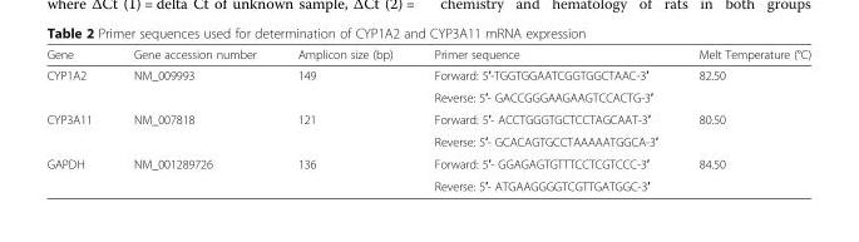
<table><thead><tr><td>Gene</td><td>Gene accession number</td><td>Amplicon size (bp)</td><td>Primer sequence</td><td>Melt Temperature (°C)</td></tr></thead><tbody><tr><td rowspan="2">CYP1A2</td><td rowspan="2">NM_009993</td><td rowspan="2">149</td><td>Forward: 5′-TGGTGGAATCGGTGGCTAAC-3′</td><td rowspan="2">82.50</td></tr><tr><td>Reverse: 5′- GACCGGGAAGAAGTCCACTG-3′</td></tr><tr><td rowspan="2">CYP3A11</td><td rowspan="2">NM_007818</td><td rowspan="2">121</td><td>Forward: 5′- ACCTGGGTGCTCCTAGCAAT-3′</td><td rowspan="2">80.50</td></tr><tr><td>Reverse: 5′- GCACAGTGCCTAAAAATGGCA-3′</td></tr><tr><td rowspan="2">GAPDH</td><td rowspan="2">NM_001289726</td><td rowspan="2">136</td><td>Forward: 5′- GGAGAGTGTTTCCTCGTCCC-3′</td><td rowspan="2">84.50</td></tr><tr><td>Reverse: 5′- ATGAAGGGGTCGTTGATGGC-3′</td></tr></tbody></table>